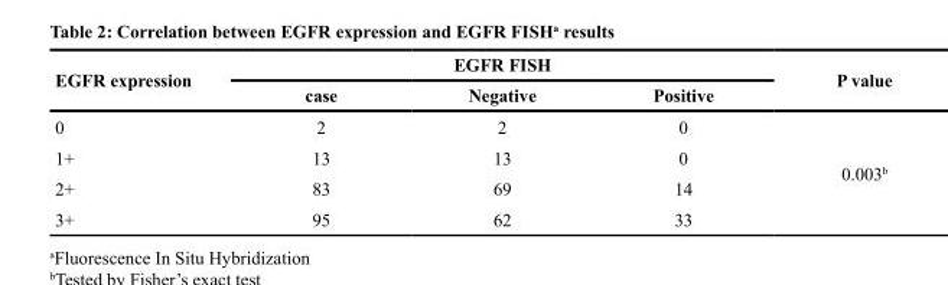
<table><thead><tr><td rowspan="2">EGFR expression</td><td colspan="3">EGFR FISH</td><td rowspan="2">P value</td></tr><tr><td>case</td><td>Negative</td><td>Positive</td></tr></thead><tbody><tr><td>0</td><td>2</td><td>2</td><td>0</td><td rowspan="4">0.003<sup>b</sup></td></tr><tr><td>1+</td><td>13</td><td>13</td><td>0</td></tr><tr><td>2+</td><td>83</td><td>69</td><td>14</td></tr><tr><td>3+</td><td>95</td><td>62</td><td>33</td></tr></tbody></table>